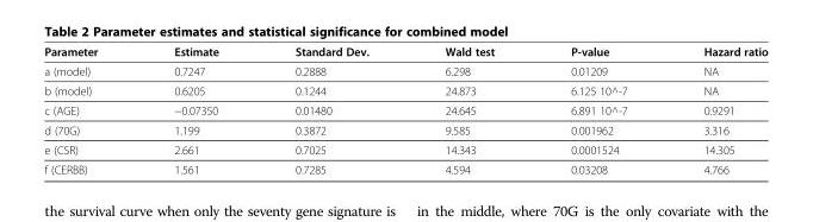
<table><thead><tr><td>Parameter</td><td>Estimate</td><td>Standard Dev.</td><td>Wald test</td><td>P-value</td><td>Hazard ratio</td></tr></thead><tbody><tr><td>a (model)</td><td>0.7247</td><td>0.2888</td><td>6.298</td><td>0.01209</td><td>NA</td></tr><tr><td>b (model)</td><td>0.6205</td><td>0.1244</td><td>24.873</td><td>6.125 10^-7</td><td>NA</td></tr><tr><td>c (AGE)</td><td>−0.07350</td><td>0.01480</td><td>24.645</td><td>6.891 10^-7</td><td>0.9291</td></tr><tr><td>d (70G)</td><td>1.199</td><td>0.3872</td><td>9.585</td><td>0.001962</td><td>3.316</td></tr><tr><td>e (CSR)</td><td>2.661</td><td>0.7025</td><td>14.343</td><td>0.0001524</td><td>14.305</td></tr><tr><td>f (CERBB)</td><td>1.561</td><td>0.7285</td><td>4.594</td><td>0.03208</td><td>4.766</td></tr></tbody></table>